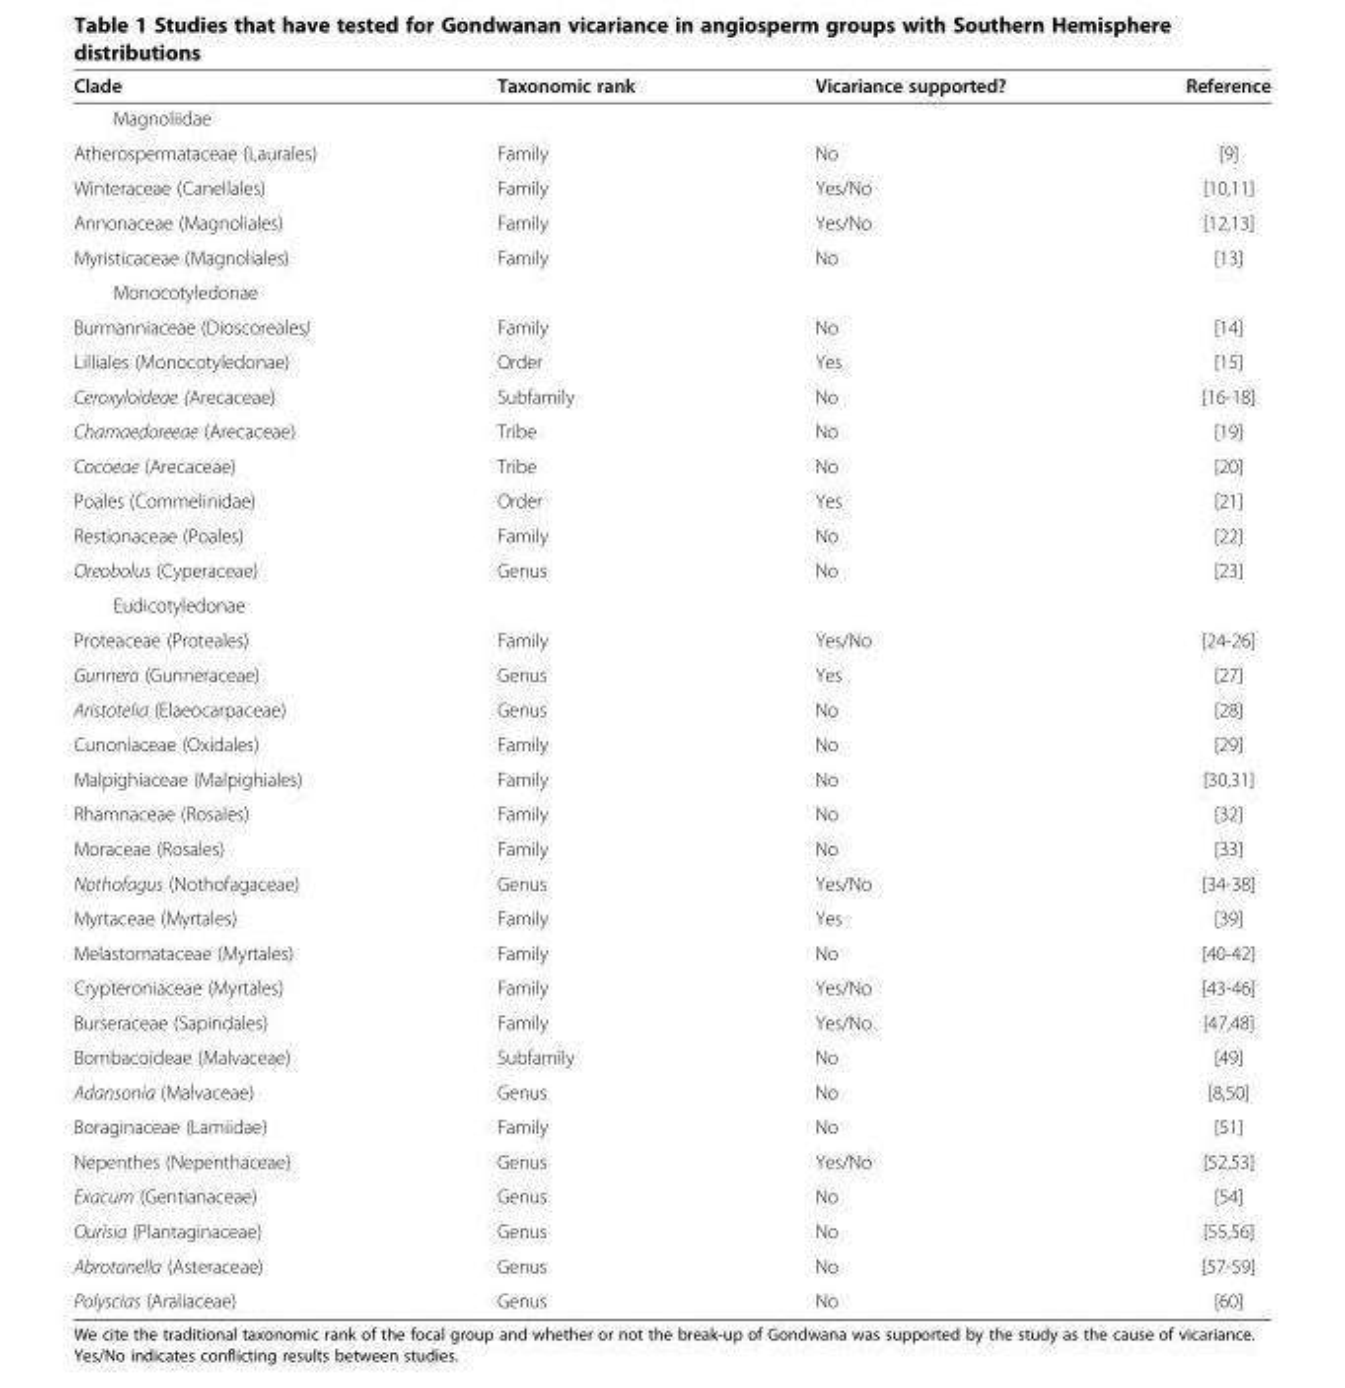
<table><thead><tr><td>Clade</td><td>Taxonomic rank</td><td>Vicariance supported?</td><td>Reference</td></tr></thead><tbody><tr><td colspan="4">Magnoliidae</td></tr><tr><td>Atherospermataceae (Laurales)</td><td>Family</td><td>No</td><td>[9]</td></tr><tr><td>Winteraceae (Canellales)</td><td>Family</td><td>Yes/No</td><td>[10,11]</td></tr><tr><td>Annonaceae (Magnoliales)</td><td>Family</td><td>Yes/No</td><td>[12,13]</td></tr><tr><td>Myristicaceae (Magnoliales)</td><td>Family</td><td>No</td><td>[13]</td></tr><tr><td colspan="4">Monocotyledonae</td></tr><tr><td>Burmanniaceae (Dioscoreales)</td><td>Family</td><td>No</td><td>[14]</td></tr><tr><td>Lilliales (Monocotyledonae)</td><td>Order</td><td>Yes</td><td>[15]</td></tr><tr><td>Ceroxyloideae (Arecaceae)</td><td>Subfamily</td><td>No</td><td>[16-18]</td></tr><tr><td>Chamaedoreeae (Arecaceae)</td><td>Tribe</td><td>No</td><td>[19]</td></tr><tr><td>Cocoeae (Arecaceae)</td><td>Tribe</td><td>No</td><td>[20]</td></tr><tr><td>Poales (Commelinidae)</td><td>Order</td><td>Yes</td><td>[21]</td></tr><tr><td>Restionaceae (Poales)</td><td>Family</td><td>No</td><td>[22]</td></tr><tr><td>Oreobolus (Cyperaceae)</td><td>Genus</td><td>No</td><td>[23]</td></tr><tr><td colspan="4">Eudicotyledonae</td></tr><tr><td>Proteaceae (Proteales)</td><td>Family</td><td>Yes/No</td><td>[24-26]</td></tr><tr><td>Gunnera (Gunneraceae)</td><td>Genus</td><td>Yes</td><td>[27]</td></tr><tr><td>Aristotelia (Elaeocarpaceae)</td><td>Genus</td><td>No</td><td>[28]</td></tr><tr><td>Cunoniaceae (Oxidales)</td><td>Family</td><td>No</td><td>[29]</td></tr><tr><td>Malpighiaceae (Malpighiales)</td><td>Family</td><td>No</td><td>[30,31]</td></tr><tr><td>Rhamnaceae (Rosales)</td><td>Family</td><td>No</td><td>[32]</td></tr><tr><td>Moraceae (Rosales)</td><td>Family</td><td>No</td><td>[33]</td></tr><tr><td>Nothofagus (Nothofagaceae)</td><td>Genus</td><td>Yes/No</td><td>[34-38]</td></tr><tr><td>Myrtaceae (Myrtales)</td><td>Family</td><td>Yes</td><td>[39]</td></tr><tr><td>Melastomataceae (Myrtales)</td><td>Family</td><td>No</td><td>[40-42]</td></tr><tr><td>Crypteroniaceae (Myrtales)</td><td>Family</td><td>Yes/No</td><td>[43-46]</td></tr><tr><td>Burseraceae (Sapindales)</td><td>Family</td><td>Yes/No</td><td>[47,48]</td></tr><tr><td>Bombacoideae (Malvaceae)</td><td>Subfamily</td><td>No</td><td>[49]</td></tr><tr><td>Adansonia (Malvaceae)</td><td>Genus</td><td>No</td><td>[8,50]</td></tr><tr><td>Boraginaceae (Lamiidae)</td><td>Family</td><td>No</td><td>[51]</td></tr><tr><td>Nepenthes (Nepenthaceae)</td><td>Genus</td><td>Yes/No</td><td>[52,53]</td></tr><tr><td>Exacum (Gentianaceae)</td><td>Genus</td><td>No</td><td>[54]</td></tr><tr><td>Ourisia (Plantaginaceae)</td><td>Genus</td><td>No</td><td>[55,56]</td></tr><tr><td>Abrotanella (Asteraceae)</td><td>Genus</td><td>No</td><td>[57-59]</td></tr><tr><td>Polyscias (Araliaceae)</td><td>Genus</td><td>No</td><td>[60]</td></tr></tbody></table>